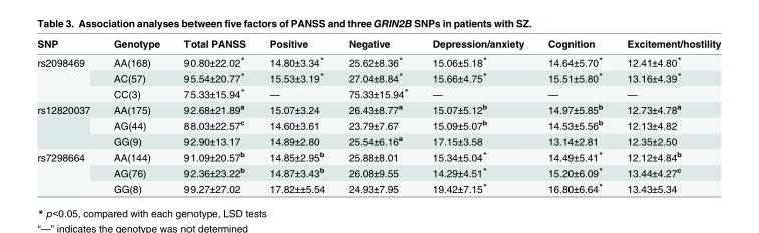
<table><thead><tr><td>SNP</td><td>Genotype</td><td>Total PANSS</td><td>Positive</td><td>Negative</td><td>Depression/anxiety</td><td>Cognition</td><td>Excitement/hostility</td></tr></thead><tbody><tr><td rowspan="3">rs2098469</td><td>AA(168)</td><td>90.80±22.02*</td><td>14.80±3.34*</td><td>25.62±8.36*</td><td>15.06±5.18*</td><td>14.64±5.70*</td><td>12.41±4.80*</td></tr><tr><td>AC(57)</td><td>95.54±20.77*</td><td>15.53±3.19*</td><td>27.04±8.84*</td><td>15.66±4.75*</td><td>15.51±5.80*</td><td>13.16±4.39*</td></tr><tr><td>CC(3)</td><td>75.33±15.94*</td><td>—</td><td>75.33±15.94*</td><td>—</td><td>—</td><td>—</td></tr><tr><td rowspan="3">rs12820037</td><td>AA(175)</td><td>92.68±21.89<sup>a</sup></td><td>15.07±3.24</td><td>26.43±8.77<sup>a</sup></td><td>15.07±5.12<sup>b</sup></td><td>14.97±5.85<sup>b</sup></td><td>12.73±4.78<sup>a</sup></td></tr><tr><td>AG(44)</td><td>88.03±22.57<sup>c</sup></td><td>14.60±3.61</td><td>23.79±7.67</td><td>15.09±5.07<sup>b</sup></td><td>14.53±5.56<sup>b</sup></td><td>12.13±4.82</td></tr><tr><td>GG(9)</td><td>92.90±13.17</td><td>14.89±2.80</td><td>25.54±6.16<sup>a</sup></td><td>17.15±3.58</td><td>13.14±2.81</td><td>12.35±2.50</td></tr><tr><td rowspan="3">rs7298664</td><td>AA(144)</td><td>91.09±20.57<sup>b</sup></td><td>14.85±2.95<sup>b</sup></td><td>25.88±8.01</td><td>15.34±5.04*</td><td>14.49±5.41*</td><td>12.12±4.84<sup>b</sup></td></tr><tr><td>AG(76)</td><td>92.36±23.22<sup>b</sup></td><td>14.87±3.43<sup>b</sup></td><td>26.08±9.55</td><td>14.29±4.51*</td><td>15.20±6.09*</td><td>13.44±4.27<sup>c</sup></td></tr><tr><td>GG(8)</td><td>99.27±27.02</td><td>17.82±±5.54</td><td>24.93±7.95</td><td>19.42±7.15*</td><td>16.80±6.64*</td><td>13.43±5.34</td></tr></tbody></table>